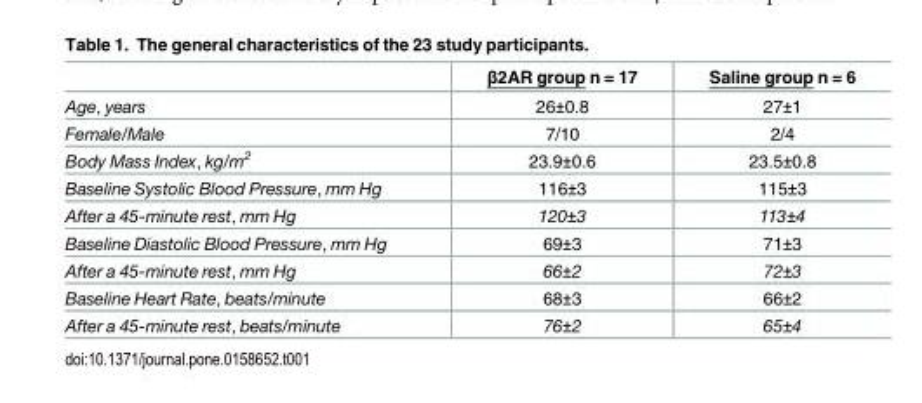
<table><thead><tr><td></td><td>β2AR group n = 17</td><td>Saline group n = 6</td></tr></thead><tbody><tr><td>Age, years</td><td>26±0.8</td><td>27±1</td></tr><tr><td>Female/Male</td><td>7/10</td><td>2/4</td></tr><tr><td>Body Mass Index, kg/m<sup>2</sup></td><td>23.9±0.6</td><td>23.5±0.8</td></tr><tr><td>Baseline Systolic Blood Pressure, mm Hg</td><td>116±3</td><td>115±3</td></tr><tr><td>After a 45-minute rest, mm Hg</td><td>120±3</td><td>113±4</td></tr><tr><td>Baseline Diastolic Blood Pressure, mm Hg</td><td>69±3</td><td>71±3</td></tr><tr><td>After a 45-minute rest, mm Hg</td><td>66±2</td><td>72±3</td></tr><tr><td>Baseline Heart Rate, beats/minute</td><td>68±3</td><td>66±2</td></tr><tr><td>After a 45-minute rest, beats/minute</td><td>76±2</td><td>65±4</td></tr></tbody></table>